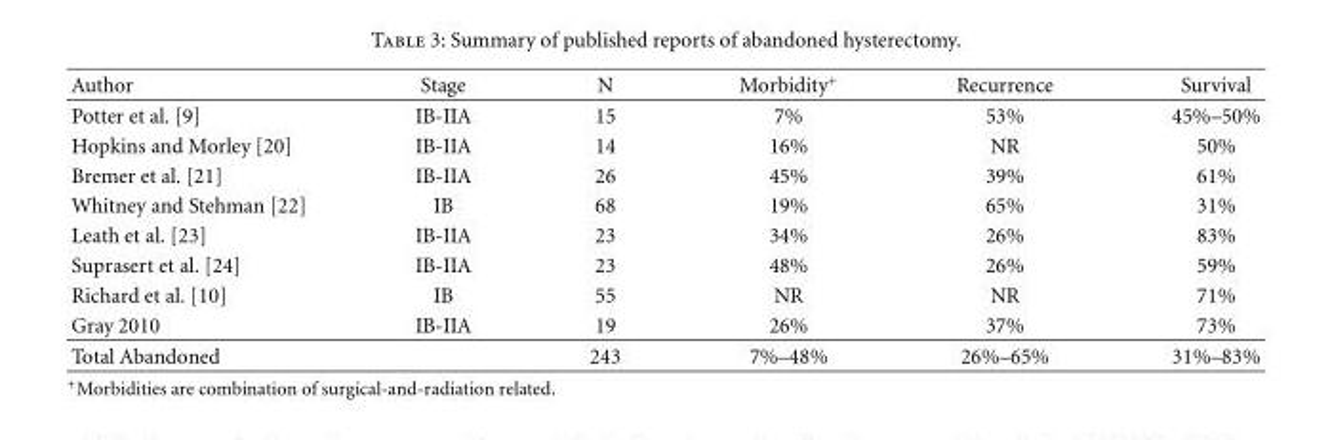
<table><thead><tr><td>Author</td><td>Stage</td><td>N</td><td>Morbidity<sup>+</sup></td><td>Recurrence</td><td>Survival</td></tr></thead><tbody><tr><td>Potter et al. [9]</td><td>IB-IIA</td><td>15</td><td>7%</td><td>53%</td><td>45%–50%</td></tr><tr><td>Hopkins and Morley [20]</td><td>IB-IIA</td><td>14</td><td>16%</td><td>NR</td><td>50%</td></tr><tr><td>Bremer et al. [21]</td><td>IB-IIA</td><td>26</td><td>45%</td><td>39%</td><td>61%</td></tr><tr><td>Whitney and Stehman [22]</td><td>IB</td><td>68</td><td>19%</td><td>65%</td><td>31%</td></tr><tr><td>Leath et al. [23]</td><td>IB-IIA</td><td>23</td><td>34%</td><td>26%</td><td>83%</td></tr><tr><td>Suprasert et al. [24]</td><td>IB-IIA</td><td>23</td><td>48%</td><td>26%</td><td>59%</td></tr><tr><td>Richard et al. [10]</td><td>IB</td><td>55</td><td>NR</td><td>NR</td><td>71%</td></tr><tr><td>Gray 2010</td><td>IB-IIA</td><td>19</td><td>26%</td><td>37%</td><td>73%</td></tr><tr><td>Total Abandoned</td><td></td><td>243</td><td>7%–48%</td><td>26%–65%</td><td>31%–83%</td></tr></tbody></table>